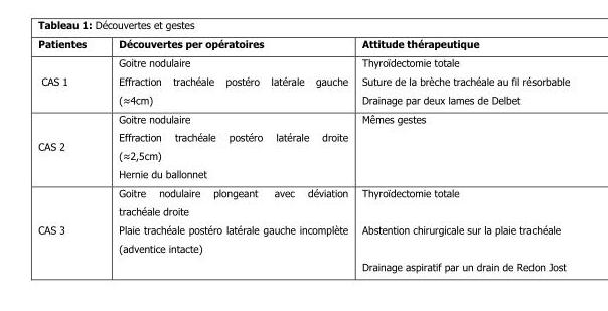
<table><thead><tr><td>Patientes</td><td>Découvertes per opératoires</td><td>Attitude thérapeutique</td></tr></thead><tbody><tr><td>CAS 1</td><td>Goitre nodulaire Effraction trachéale postéro latérale gauche (≈4cm)</td><td>Thyroïdectomie totale Suture de la brèche trachéale au fil résorbable Drainage par deux lames de Delbet</td></tr><tr><td>CAS 2</td><td>Goitre nodulaire Effraction trachéale postéro latérale droite (≈2,5cm) Hernie du ballonnet</td><td>Mêmes gestes</td></tr><tr><td>CAS 3</td><td>Goitre nodulaire plongeant avec déviation trachéale droite Plaie trachéale postéro latérale gauche incomplète (adventice intacte)</td><td>Thyroïdectomie totale Abstention chirurgicale sur la plaie trachéale Drainage aspiratif par un drain de Redon Jost</td></tr></tbody></table>